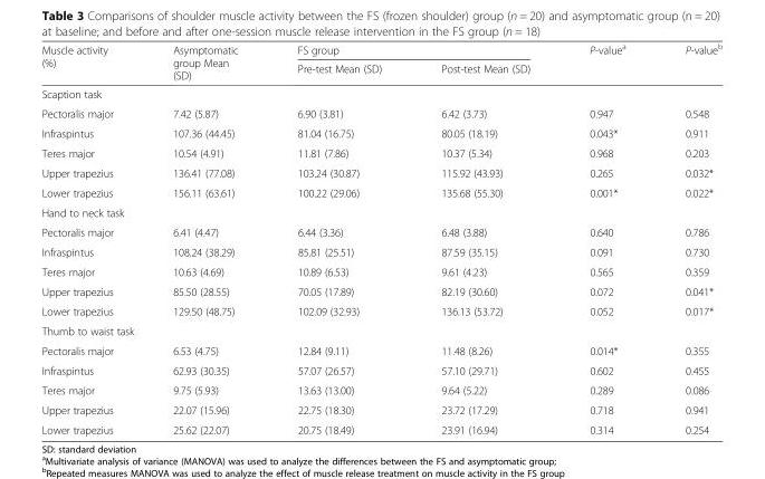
<table><thead><tr><td rowspan="2">Muscle activity (%)</td><td rowspan="2">Asymptomatic group Mean (SD)</td><td colspan="2">FS group</td><td rowspan="2">P-value<sup>a</sup></td><td rowspan="2">P-value<sup>b</sup></td></tr><tr><td>Pre-test Mean (SD)</td><td>Post-test Mean (SD)</td></tr></thead><tbody><tr><td colspan="6">Scaption task</td></tr><tr><td>Pectoralis major</td><td>7.42 (5.87)</td><td>6.90 (3.81)</td><td>6.42 (3.73)</td><td>0.947</td><td>0.548</td></tr><tr><td>Infraspintus</td><td>107.36 (44.45)</td><td>81.04 (16.75)</td><td>80.05 (18.19)</td><td>0.043*</td><td>0.911</td></tr><tr><td>Teres major</td><td>10.54 (4.91)</td><td>11.81 (7.86)</td><td>10.37 (5.34)</td><td>0.968</td><td>0.203</td></tr><tr><td>Upper trapezius</td><td>136.41 (77.08)</td><td>103.24 (30.87)</td><td>115.92 (43.93)</td><td>0.265</td><td>0.032*</td></tr><tr><td>Lower trapezius</td><td>156.11 (63.61)</td><td>100.22 (29.06)</td><td>135.68 (55.30)</td><td>0.001*</td><td>0.022*</td></tr><tr><td colspan="6">Hand to neck task</td></tr><tr><td>Pectoralis major</td><td>6.41 (4.47)</td><td>6.44 (3.36)</td><td>6.48 (3.88)</td><td>0.640</td><td>0.786</td></tr><tr><td>Infraspintus</td><td>108.24 (38.29)</td><td>85.81 (25.51)</td><td>87.59 (35.15)</td><td>0.091</td><td>0.730</td></tr><tr><td>Teres major</td><td>10.63 (4.69)</td><td>10.89 (6.53)</td><td>9.61 (4.23)</td><td>0.565</td><td>0.359</td></tr><tr><td>Upper trapezius</td><td>85.50 (28.55)</td><td>70.05 (17.89)</td><td>82.19 (30.60)</td><td>0.072</td><td>0.041*</td></tr><tr><td>Lower trapezius</td><td>129.50 (48.75)</td><td>102.09 (32.93)</td><td>136.13 (53.72)</td><td>0.052</td><td>0.017*</td></tr><tr><td colspan="6">Thumb to waist task</td></tr><tr><td>Pectoralis major</td><td>6.53 (4.75)</td><td>12.84 (9.11)</td><td>11.48 (8.26)</td><td>0.014*</td><td>0.355</td></tr><tr><td>Infraspintus</td><td>62.93 (30.35)</td><td>57.07 (26.57)</td><td>57.10 (29.71)</td><td>0.602</td><td>0.455</td></tr><tr><td>Teres major</td><td>9.75 (5.93)</td><td>13.63 (13.00)</td><td>9.64 (5.22)</td><td>0.289</td><td>0.086</td></tr><tr><td>Upper trapezius</td><td>22.07 (15.96)</td><td>22.75 (18.30)</td><td>23.72 (17.29)</td><td>0.718</td><td>0.941</td></tr><tr><td>Lower trapezius</td><td>25.62 (22.07)</td><td>20.75 (18.49)</td><td>23.91 (16.94)</td><td>0.314</td><td>0.254</td></tr></tbody></table>